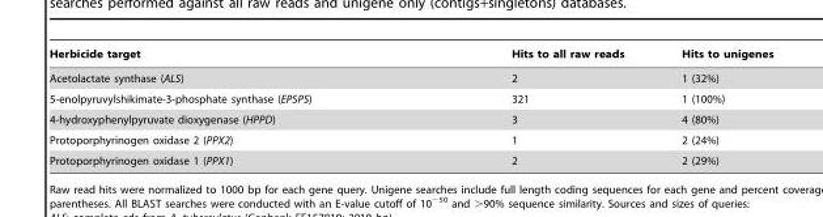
<table><thead><tr><td>Herbicide target</td><td>Hits to all raw reads</td><td>Hits to unigenes</td></tr></thead><tbody><tr><td>Acetolactate synthase (ALS)</td><td>2</td><td>1 (32%)</td></tr><tr><td>5-enolpyruvylshikimate-3-phosphate synthase (EPSPS)</td><td>321</td><td>1 (100%)</td></tr><tr><td>4-hydroxyphenylpyruvate dioxygenase (HPPD)</td><td>3</td><td>4 (80%)</td></tr><tr><td>Protoporphyrinogen oxidase 2 (PPX2)</td><td>1</td><td>2 (24%)</td></tr><tr><td>Protoporphyrinogen oxidase 1 (PPX1)</td><td>2</td><td>2 (29%)</td></tr></tbody></table>